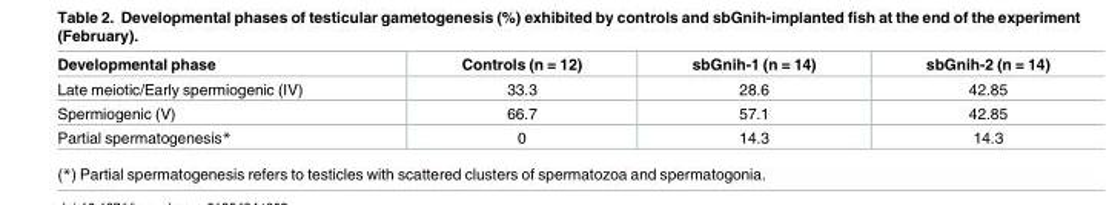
<table><thead><tr><td>Developmental phase</td><td>Controls (n = 12)</td><td>sbGnih-1 (n = 14)</td><td>sbGnih-2 (n = 14)</td></tr></thead><tbody><tr><td>Late meiotic/Early spermiogenic (IV)</td><td>33.3</td><td>28.6</td><td>42.85</td></tr><tr><td>Spermiogenic (V)</td><td>66.7</td><td>57.1</td><td>42.85</td></tr><tr><td>Partial spermatogenesis*</td><td>0</td><td>14.3</td><td>14.3</td></tr></tbody></table>